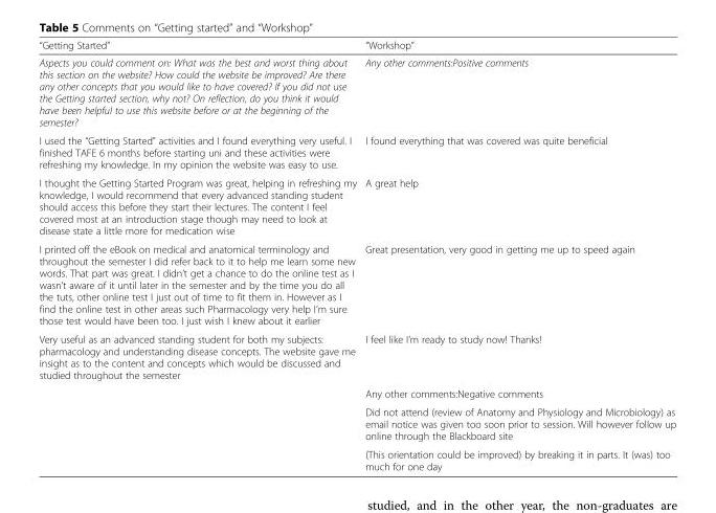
<table><thead><tr><td>“Getting Started”</td><td>“Workshop”</td></tr></thead><tbody><tr><td>Aspects you could comment on: What was the best and worst thing about this section on the website? How could the website be improved? Are there any other concepts that you would like to have covered? If you did not use the Getting started section, why not? On reflection, do you think it would have been helpful to use this website before or at the beginning of the semester?</td><td>Any other comments:Positive comments</td></tr><tr><td>I used the “Getting Started” activities and I found everything very useful. I finished TAFE 6 months before starting uni and these activities were refreshing my knowledge. In my opinion the website was easy to use.</td><td>I found everything that was covered was quite beneficial</td></tr><tr><td>I thought the Getting Started Program was great, helping in refreshing my knowledge, I would recommend that every advanced standing student should access this before they start their lectures. The content I feel covered most at an introduction stage though may need to look at disease state a little more for medication wise</td><td>A great help</td></tr><tr><td>I printed off the eBook on medical and anatomical terminology and throughout the semester I did refer back to it to help me learn some new words. That part was great. I didn’t get a chance to do the online test as I wasn’t aware of it until later in the semester and by the time you do all the tuts, other online test I just out of time to fit them in. However as I find the online test in other areas such Pharmacology very help I’m sure those test would have been too. I just wish I knew about it earlier</td><td>Great presentation, very good in getting me up to speed again</td></tr><tr><td rowspan="4">Very useful as an advanced standing student for both my subjects: pharmacology and understanding disease concepts. The website gave me insight as to the content and concepts which would be discussed and studied throughout the semester</td><td>I feel like I’m ready to study now! Thanks!</td></tr><tr><td>Any other comments:Negative comments</td></tr><tr><td>Did not attend (review of Anatomy and Physiology and Microbiology) as email notice was given too soon prior to session. Will however follow up online through the Blackboard site</td></tr><tr><td>(This orientation could be improved) by breaking it in parts. It (was) too much for one day</td></tr></tbody></table>